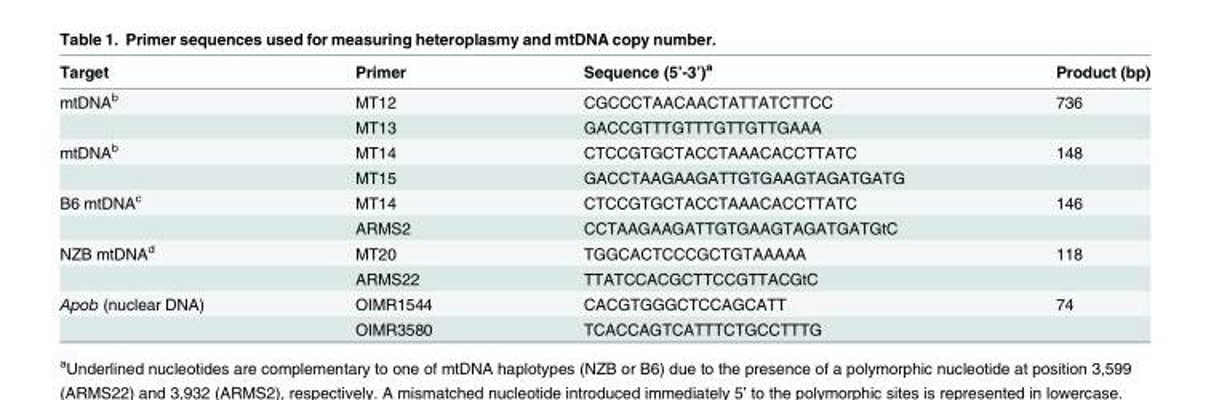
<table><thead><tr><td>Target</td><td>Primer</td><td>Sequence (5’-3’)<sup>a</sup></td><td>Product (bp)</td></tr></thead><tbody><tr><td rowspan="2">mtDNA<sup>b</sup></td><td>MT12</td><td>CGCCCTAACAACTATTATCTTCC</td><td>736</td></tr><tr><td>MT13</td><td>GACCGTTTGTTTGTTGTTGAAA</td><td></td></tr><tr><td rowspan="2">mtDNA<sup>b</sup></td><td>MT14</td><td>CTCCGTGCTACCTAAACACCTTATC</td><td>148</td></tr><tr><td>MT15</td><td>GACCTAAGAAGATTGTGAAGTAGATGATG</td><td></td></tr><tr><td rowspan="2">B6 mtDNA<sup>c</sup></td><td>MT14</td><td>CTCCGTGCTACCTAAACACCTTATC</td><td>146</td></tr><tr><td>ARMS2</td><td>CCTAAGAAGATTGTGAAGTAGATGATGtC</td><td></td></tr><tr><td rowspan="2">NZB mtDNA<sup>d</sup></td><td>MT20</td><td>TGGCACTCCCGCTGTAAAAA</td><td>118</td></tr><tr><td>ARMS22</td><td>TTATCCACGCTTCCGTTACGtC</td><td></td></tr><tr><td rowspan="2">Apob (nuclear DNA)</td><td>OIMR1544</td><td>CACGTGGGCTCCAGCATT</td><td>74</td></tr><tr><td>OIMR3580</td><td>TCACCAGTCATTTCTGCCTTTG</td><td></td></tr></tbody></table>